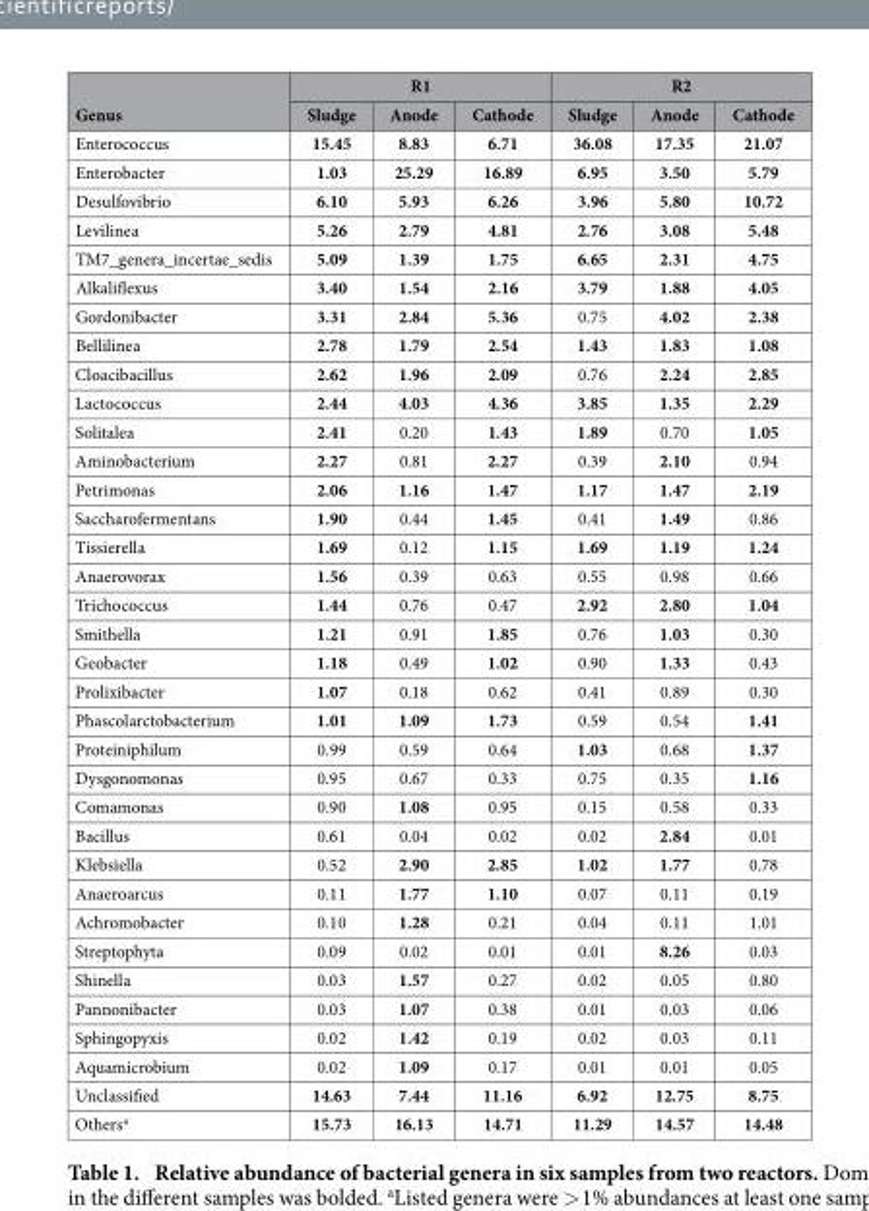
<table><thead><tr><td rowspan="2">Genus</td><td colspan="3">R1</td><td colspan="3">R2</td></tr><tr><td>Sludge</td><td>Anode</td><td>Cathode</td><td>Sludge</td><td>Anode</td><td>Cathode</td></tr></thead><tbody><tr><td>Enterococcus</td><td>15.45</td><td>8.83</td><td>6.71</td><td>36.08</td><td>17.35</td><td>21.07</td></tr><tr><td>Enterobacter</td><td>1.03</td><td>25.29</td><td>16.89</td><td>6.95</td><td>3.50</td><td>5.79</td></tr><tr><td>Desulfovibrio</td><td>6.10</td><td>5.93</td><td>6.26</td><td>3.96</td><td>5.80</td><td>10.72</td></tr><tr><td>Levilinea</td><td>5.26</td><td>2.79</td><td>4.81</td><td>2.76</td><td>3.08</td><td>5.48</td></tr><tr><td>TM7_genera_incertae_sedis</td><td>5.09</td><td>1.39</td><td>1.75</td><td>6.65</td><td>2.31</td><td>4.75</td></tr><tr><td>Alkaliflexus</td><td>3.40</td><td>1.54</td><td>2.16</td><td>3.79</td><td>1.88</td><td>4.05</td></tr><tr><td>Gordonibacter</td><td>3.31</td><td>2.84</td><td>5.36</td><td>0.75</td><td>4.02</td><td>2.38</td></tr><tr><td>Bellilinea</td><td>2.78</td><td>1.79</td><td>2.54</td><td>1.43</td><td>1.83</td><td>1.08</td></tr><tr><td>Cloacibacillus</td><td>2.62</td><td>1.96</td><td>2.09</td><td>0.76</td><td>2.24</td><td>2.85</td></tr><tr><td>Lactococcus</td><td>2.44</td><td>4.03</td><td>4.36</td><td>3.85</td><td>1.35</td><td>2.29</td></tr><tr><td>Solitalea</td><td>2.41</td><td>0.20</td><td>1.43</td><td>1.89</td><td>0.70</td><td>1.05</td></tr><tr><td>Aminobacterium</td><td>2.27</td><td>0.81</td><td>2.27</td><td>0.39</td><td>2.10</td><td>0.94</td></tr><tr><td>Petrimonas</td><td>2.06</td><td>1.16</td><td>1.47</td><td>1.17</td><td>1.47</td><td>2.19</td></tr><tr><td>Saccharofermentans</td><td>1.90</td><td>0.44</td><td>1.45</td><td>0.41</td><td>1.49</td><td>0.86</td></tr><tr><td>Tissierella</td><td>1.69</td><td>0.12</td><td>1.15</td><td>1.69</td><td>1.19</td><td>1.24</td></tr><tr><td>Anaerovorax</td><td>1.56</td><td>0.39</td><td>0.63</td><td>0.55</td><td>0.98</td><td>0.66</td></tr><tr><td>Trichococcus</td><td>1.44</td><td>0.76</td><td>0.47</td><td>2.92</td><td>2.80</td><td>1.04</td></tr><tr><td>Smithella</td><td>1.21</td><td>0.91</td><td>1.85</td><td>0.76</td><td>1.03</td><td>0.30</td></tr><tr><td>Geobacter</td><td>1.18</td><td>0.49</td><td>1.02</td><td>0.90</td><td>1.33</td><td>0.43</td></tr><tr><td>Prolixibacter</td><td>1.07</td><td>0.18</td><td>0.62</td><td>0.41</td><td>0.89</td><td>0.30</td></tr><tr><td>Phascolarctobacterium</td><td>1.01</td><td>1.09</td><td>1.73</td><td>0.59</td><td>0.54</td><td>1.41</td></tr><tr><td>Proteiniphilum</td><td>0.99</td><td>0.59</td><td>0.64</td><td>1.03</td><td>0.68</td><td>1.37</td></tr><tr><td>Dysgonomonas</td><td>0.95</td><td>0.67</td><td>0.33</td><td>0.75</td><td>0.35</td><td>1.16</td></tr><tr><td>Comamonas</td><td>0.90</td><td>1.08</td><td>0.95</td><td>0.15</td><td>0.58</td><td>0.33</td></tr><tr><td>Bacillus</td><td>0.61</td><td>0.04</td><td>0.02</td><td>0.02</td><td>2.84</td><td>0.01</td></tr><tr><td>Klebsiella</td><td>0.52</td><td>2.90</td><td>2.85</td><td>1.02</td><td>1.77</td><td>0.78</td></tr><tr><td>Anaeroarcus</td><td>0.11</td><td>1.77</td><td>1.10</td><td>0.07</td><td>0.11</td><td>0.19</td></tr><tr><td>Achromobacter</td><td>0.10</td><td>1.28</td><td>0.21</td><td>0.04</td><td>0.11</td><td>1.01</td></tr><tr><td>Streptophyta</td><td>0.09</td><td>0.02</td><td>0.01</td><td>0.01</td><td>8.26</td><td>0.03</td></tr><tr><td>Shinella</td><td>0.03</td><td>1.57</td><td>0.27</td><td>0.02</td><td>0.05</td><td>0.80</td></tr><tr><td>Pannonibacter</td><td>0.03</td><td>1.07</td><td>0.38</td><td>0.01</td><td>0.03</td><td>0.06</td></tr><tr><td>Sphingopyxis</td><td>0.02</td><td>1.42</td><td>0.19</td><td>0.02</td><td>0.03</td><td>0.11</td></tr><tr><td>Aquamicrobium</td><td>0.02</td><td>1.09</td><td>0.17</td><td>0.01</td><td>0.01</td><td>0.05</td></tr><tr><td>Unclassified</td><td>14.63</td><td>7.44</td><td>11.16</td><td>6.92</td><td>12.75</td><td>8.75</td></tr><tr><td>Others<sup>a</sup></td><td>15.73</td><td>16.13</td><td>14.71</td><td>11.29</td><td>14.57</td><td>14.48</td></tr></tbody></table>